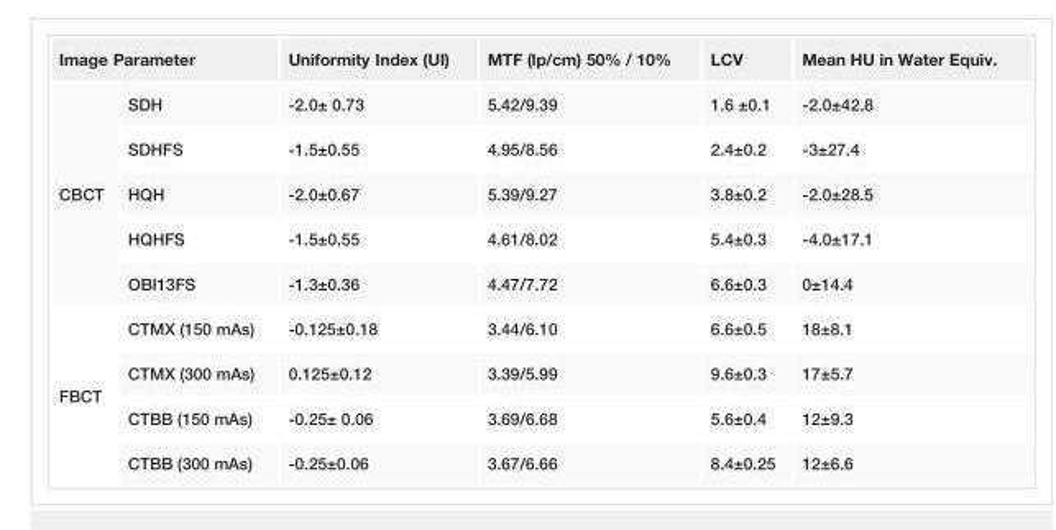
<table><tbody><tr><td colspan="2">Image Parameter</td><td>Uniformity Index (UI)</td><td>MTF (lp/cm) 50% / 10%</td><td>LCV</td><td>Mean HU in Water Equiv.</td></tr><tr><td rowspan="5">CBCT</td><td>SDH</td><td>-2.0± 0.73</td><td>5.42/9.39</td><td>1.6 ±0.1</td><td>-2.0±42.8</td></tr><tr><td>SDHFS</td><td>-1.5±0.55</td><td>4.95/8.56</td><td>2.4±0.2</td><td>-3±27.4</td></tr><tr><td>HQH</td><td>-2.0±0.67</td><td>5.39/9.27</td><td>3.8±0.2</td><td>-2.0±28.5</td></tr><tr><td>HQHFS</td><td>-1.5±0.55</td><td>4.61/8.02</td><td>5.4±0.3</td><td>-4.0±17.1</td></tr><tr><td>OBI13FS</td><td>-1.3±0.36</td><td>4.47/7.72</td><td>6.6±0.3</td><td>0±14.4</td></tr><tr><td rowspan="4">FBCT</td><td>CTMX (150 mAs)</td><td>-0.125±0.18</td><td>3.44/6.10</td><td>6.6±0.5</td><td>18±8.1</td></tr><tr><td>CTMX (300 mAs)</td><td>0.125±0.12</td><td>3.39/5.99</td><td>9.6±0.3</td><td>17±5.7</td></tr><tr><td>CTBB (150 mAs)</td><td>-0.25± 0.06</td><td>3.69/6.68</td><td>5.6±0.4</td><td>12±9.3</td></tr><tr><td>CTBB (300 mAs)</td><td>-0.25±0.06</td><td>3.67/6.66</td><td>8.4±0.25</td><td>12±6.6</td></tr></tbody></table>